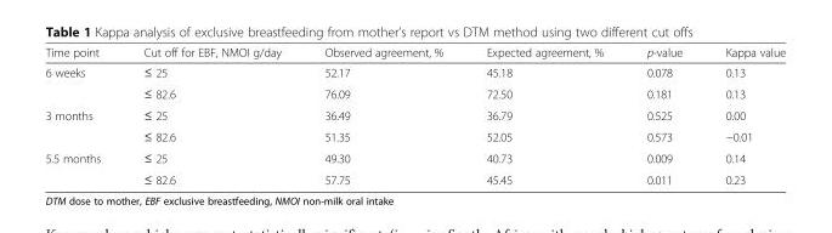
<table><thead><tr><td>Time point</td><td>Cut off for EBF, NMOI g/day</td><td>Observed agreement, %</td><td>Expected agreement, %</td><td>p-value</td><td>Kappa value</td></tr></thead><tbody><tr><td rowspan="2">6 weeks</td><td>≤ 25</td><td>52.17</td><td>45.18</td><td>0.078</td><td>0.13</td></tr><tr><td>≤ 82.6</td><td>76.09</td><td>72.50</td><td>0.181</td><td>0.13</td></tr><tr><td rowspan="2">3 months</td><td>≤ 25</td><td>36.49</td><td>36.79</td><td>0.525</td><td>0.00</td></tr><tr><td>≤ 82.6</td><td>51.35</td><td>52.05</td><td>0.573</td><td>−0.01</td></tr><tr><td rowspan="2">5.5 months</td><td>≤ 25</td><td>49.30</td><td>40.73</td><td>0.009</td><td>0.14</td></tr><tr><td>≤ 82.6</td><td>57.75</td><td>45.45</td><td>0.011</td><td>0.23</td></tr></tbody></table>